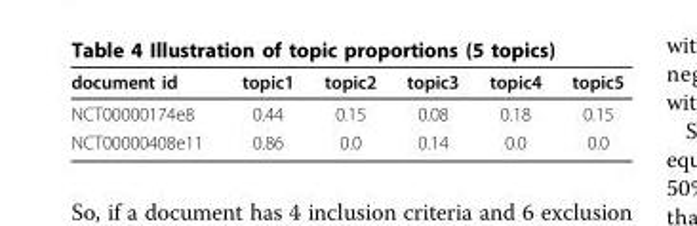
<table><thead><tr><td>document id</td><td>topic1</td><td>topic2</td><td>topic3</td><td>topic4</td><td>topic5</td></tr></thead><tbody><tr><td>NCT00000174e8</td><td>0.44</td><td>0.15</td><td>0.08</td><td>0.18</td><td>0.15</td></tr><tr><td>NCT00000408e11</td><td>0.86</td><td>0.0</td><td>0.14</td><td>0.0</td><td>0.0</td></tr></tbody></table>